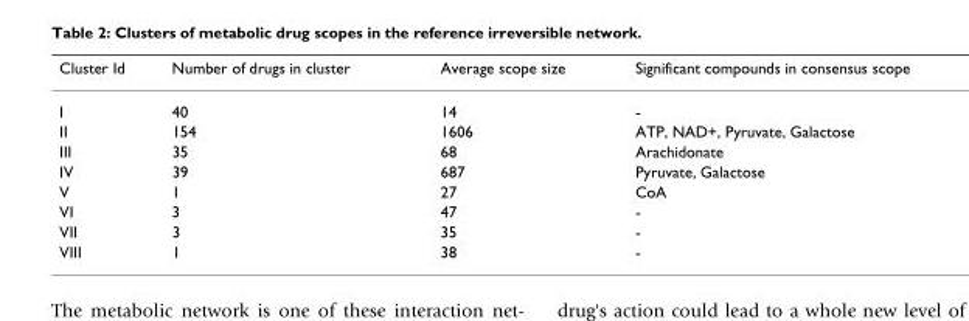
<table><thead><tr><td>Cluster Id</td><td>Number of drugs in cluster</td><td>Average scope size</td><td>Significant compounds in consensus scope</td></tr></thead><tbody><tr><td>I</td><td>40</td><td>14</td><td>-</td></tr><tr><td>II</td><td>154</td><td>1606</td><td>ATP, NAD+, Pyruvate, Galactose</td></tr><tr><td>III</td><td>35</td><td>68</td><td>Arachidonate</td></tr><tr><td>IV</td><td>39</td><td>687</td><td>Pyruvate, Galactose</td></tr><tr><td>V</td><td>1</td><td>27</td><td>CoA</td></tr><tr><td>VI</td><td>3</td><td>47</td><td>-</td></tr><tr><td>VII</td><td>3</td><td>35</td><td>-</td></tr><tr><td>VIII</td><td>1</td><td>38</td><td>-</td></tr></tbody></table>